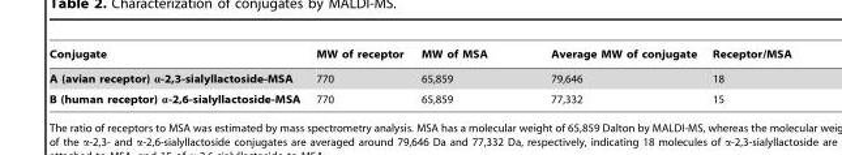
<table><thead><tr><td>Conjugate</td><td>MW of receptor</td><td>MW of MSA</td><td>Average MW of conjugate</td><td>Receptor/MSA</td></tr></thead><tbody><tr><td>A (avian receptor) α-2,3-sialyllactoside-MSA</td><td>770</td><td>65,859</td><td>79,646</td><td>18</td></tr><tr><td>B (human receptor) α-2,6-sialyllactoside-MSA</td><td>770</td><td>65,859</td><td>77,332</td><td>15</td></tr></tbody></table>